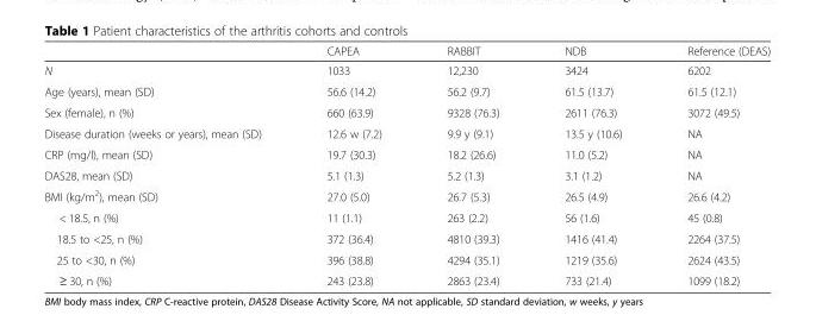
<table><thead><tr><td></td><td>CAPEA</td><td>RABBIT</td><td>NDB</td><td>Reference (DEAS)</td></tr></thead><tbody><tr><td>N</td><td>1033</td><td>12,230</td><td>3424</td><td>6202</td></tr><tr><td>Age (years), mean (SD)</td><td>56.6 (14.2)</td><td>56.2 (9.7)</td><td>61.5 (13.7)</td><td>61.5 (12.1)</td></tr><tr><td>Sex (female), n (%)</td><td>660 (63.9)</td><td>9328 (76.3)</td><td>2611 (76.3)</td><td>3072 (49.5)</td></tr><tr><td>Disease duration (weeks or years), mean (SD)</td><td>12.6 w (7.2)</td><td>9.9 y (9.1)</td><td>13.5 y (10.6)</td><td>NA</td></tr><tr><td>CRP (mg/l), mean (SD)</td><td>19.7 (30.3)</td><td>18.2 (26.6)</td><td>11.0 (5.2)</td><td>NA</td></tr><tr><td>DAS28, mean (SD)</td><td>5.1 (1.3)</td><td>5.2 (1.3)</td><td>3.1 (1.2)</td><td>NA</td></tr><tr><td>BMI (kg/m<sup>2</sup>), mean (SD)</td><td>27.0 (5.0)</td><td>26.7 (5.3)</td><td>26.5 (4.9)</td><td>26.6 (4.2)</td></tr><tr><td>&lt; 18.5, n (%)</td><td>11 (1.1)</td><td>263 (2.2)</td><td>56 (1.6)</td><td>45 (0.8)</td></tr><tr><td>18.5 to &lt;25, n (%)</td><td>372 (36.4)</td><td>4810 (39.3)</td><td>1416 (41.4)</td><td>2264 (37.5)</td></tr><tr><td>25 to &lt;30, n (%)</td><td>396 (38.8)</td><td>4294 (35.1)</td><td>1219 (35.6)</td><td>2624 (43.5)</td></tr><tr><td>≥ 30, n (%)</td><td>243 (23.8)</td><td>2863 (23.4)</td><td>733 (21.4)</td><td>1099 (18.2)</td></tr></tbody></table>